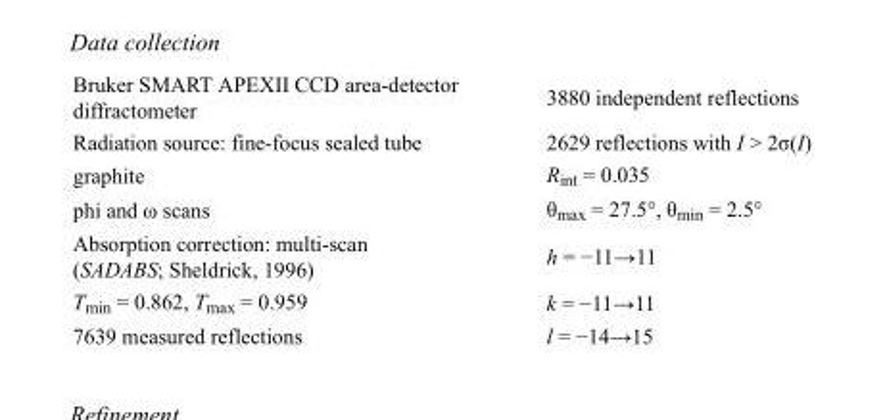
<table><tbody><tr><td>Bruker SMART APEXII CCD area-detector diffractometer</td><td>3880 independent reflections</td></tr><tr><td>Radiation source: fine-focus sealed tube</td><td>2629 reflections with I &gt; 2σ(I)</td></tr><tr><td>graphite</td><td>R<sub>int</sub> = 0.035</td></tr><tr><td>phi and ω scans</td><td>θ<sub>max</sub> = 27.5°, θ<sub>min</sub> = 2.5°</td></tr><tr><td>Absorption correction: multi-scan (SADABS; Sheldrick, 1996)</td><td>h = −11→11</td></tr><tr><td>T<sub>min</sub> = 0.862, T<sub>max</sub> = 0.959</td><td>k = −11→11</td></tr><tr><td>7639 measured reflections</td><td>l = −14→15</td></tr></tbody></table>